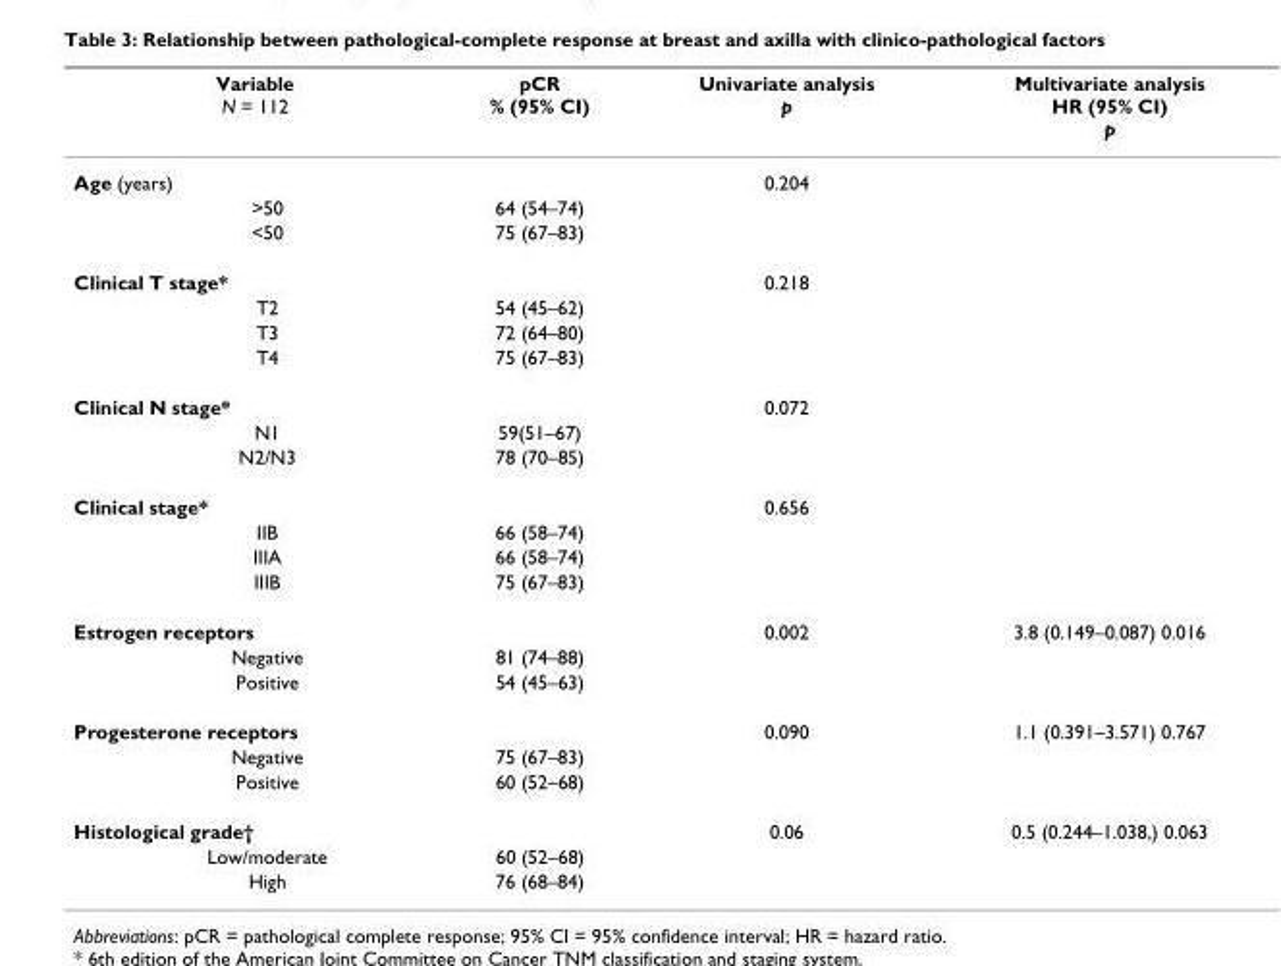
<table><thead><tr><td>Variable N = 112</td><td>pCR % (95% CI)</td><td>Univariate analysis p</td><td>Multivariate analysis HR (95% CI) p</td></tr></thead><tbody><tr><td>Age (years)</td><td></td><td>0.204</td><td></td></tr><tr><td>&gt;50</td><td>64 (54–74)</td><td></td><td></td></tr><tr><td>&lt;50</td><td>75 (67–83)</td><td></td><td></td></tr><tr><td>Clinical T stage*</td><td></td><td>0.218</td><td></td></tr><tr><td>T2</td><td>54 (45–62)</td><td></td><td></td></tr><tr><td>T3</td><td>72 (64–80)</td><td></td><td></td></tr><tr><td>T4</td><td>75 (67–83)</td><td></td><td></td></tr><tr><td>Clinical N stage*</td><td></td><td>0.072</td><td></td></tr><tr><td>N1</td><td>59(51–67)</td><td></td><td></td></tr><tr><td>N2/N3</td><td>78 (70–85)</td><td></td><td></td></tr><tr><td>Clinical stage*</td><td></td><td>0.656</td><td></td></tr><tr><td>IIB</td><td>66 (58–74)</td><td></td><td></td></tr><tr><td>IIIA</td><td>66 (58–74)</td><td></td><td></td></tr><tr><td>IIIB</td><td>75 (67–83)</td><td></td><td></td></tr><tr><td>Estrogen receptors</td><td></td><td>0.002</td><td>3.8 (0.149–0.087) 0.016</td></tr><tr><td>Negative</td><td>81 (74–88)</td><td></td><td></td></tr><tr><td>Positive</td><td>54 (45–63)</td><td></td><td></td></tr><tr><td>Progesterone receptors</td><td></td><td>0.090</td><td>1.1 (0.391–3.571) 0.767</td></tr><tr><td>Negative</td><td>75 (67–83)</td><td></td><td></td></tr><tr><td>Positive</td><td>60 (52–68)</td><td></td><td></td></tr><tr><td>Histological grade†</td><td></td><td>0.06</td><td>0.5 (0.244–1.038,) 0.063</td></tr><tr><td>Low/moderate</td><td>60 (52–68)</td><td></td><td></td></tr><tr><td>High</td><td>76 (68–84)</td><td></td><td></td></tr></tbody></table>